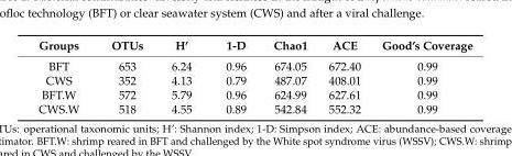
<table><thead><tr><td>Groups</td><td>OTUs</td><td>H’</td><td>1-D</td><td>Chao1</td><td>ACE</td><td>Good’s Coverage</td></tr></thead><tbody><tr><td>BFT</td><td>653</td><td>6.24</td><td>0.96</td><td>674.05</td><td>672.40</td><td>0.99</td></tr><tr><td>CWS</td><td>352</td><td>4.13</td><td>0.79</td><td>487.07</td><td>408.01</td><td>0.99</td></tr><tr><td>BFT.W</td><td>572</td><td>5.79</td><td>0.96</td><td>624.99</td><td>627.61</td><td>0.99</td></tr><tr><td>CWS.W</td><td>518</td><td>4.55</td><td>0.89</td><td>542.84</td><td>552.32</td><td>0.99</td></tr></tbody></table>